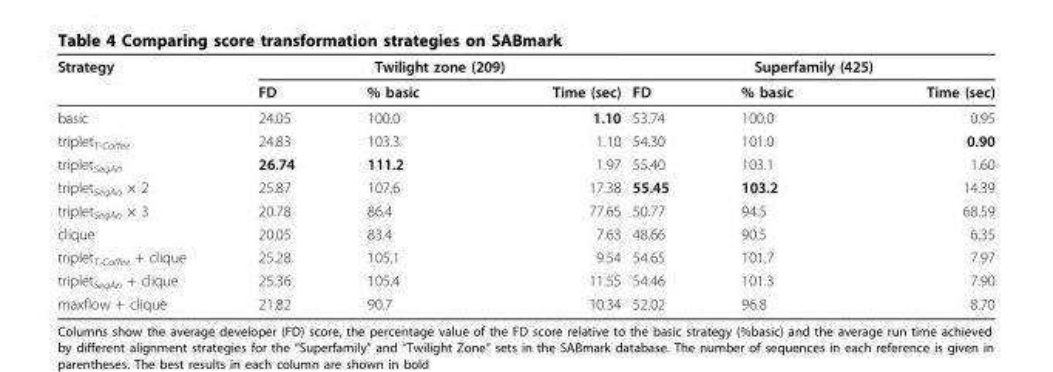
<table><thead><tr><td rowspan="2">Strategy</td><td colspan="3">Twilight zone (209)</td><td colspan="3">Superfamily (425)</td></tr><tr><td>FD</td><td>% basic</td><td>Time (sec)</td><td>FD</td><td>% basic</td><td>Time (sec)</td></tr></thead><tbody><tr><td>basic</td><td>24.05</td><td>100.0</td><td>1.10</td><td>53.74</td><td>100.0</td><td>0.95</td></tr><tr><td>triplet<sub>T-Coffee</sub></td><td>24.83</td><td>103.3</td><td>1.10</td><td>54.30</td><td>101.0</td><td>0.90</td></tr><tr><td>triplet<sub>SeqAn</sub></td><td>26.74</td><td>111.2</td><td>1.97</td><td>55.40</td><td>103.1</td><td>1.60</td></tr><tr><td>triplet<sub>SeqAn</sub> × 2</td><td>25.87</td><td>107.6</td><td>17.38</td><td>55.45</td><td>103.2</td><td>14.39</td></tr><tr><td>triplet<sub>SeqAn</sub> × 3</td><td>20.78</td><td>86.4</td><td>77.65</td><td>50.77</td><td>94.5</td><td>68.59</td></tr><tr><td>clique</td><td>20.05</td><td>83.4</td><td>7.63</td><td>48.66</td><td>90.5</td><td>6.35</td></tr><tr><td>triplet<sub>T-Coffee</sub> + clique</td><td>25.28</td><td>105.1</td><td>9.54</td><td>54.65</td><td>101.7</td><td>7.97</td></tr><tr><td>triplet<sub>SeqAn</sub> + clique</td><td>25.36</td><td>105.4</td><td>11.55</td><td>54.46</td><td>101.3</td><td>7.90</td></tr><tr><td>maxflow + clique</td><td>21.82</td><td>90.7</td><td>10.34</td><td>52.02</td><td>96.8</td><td>8.70</td></tr></tbody></table>